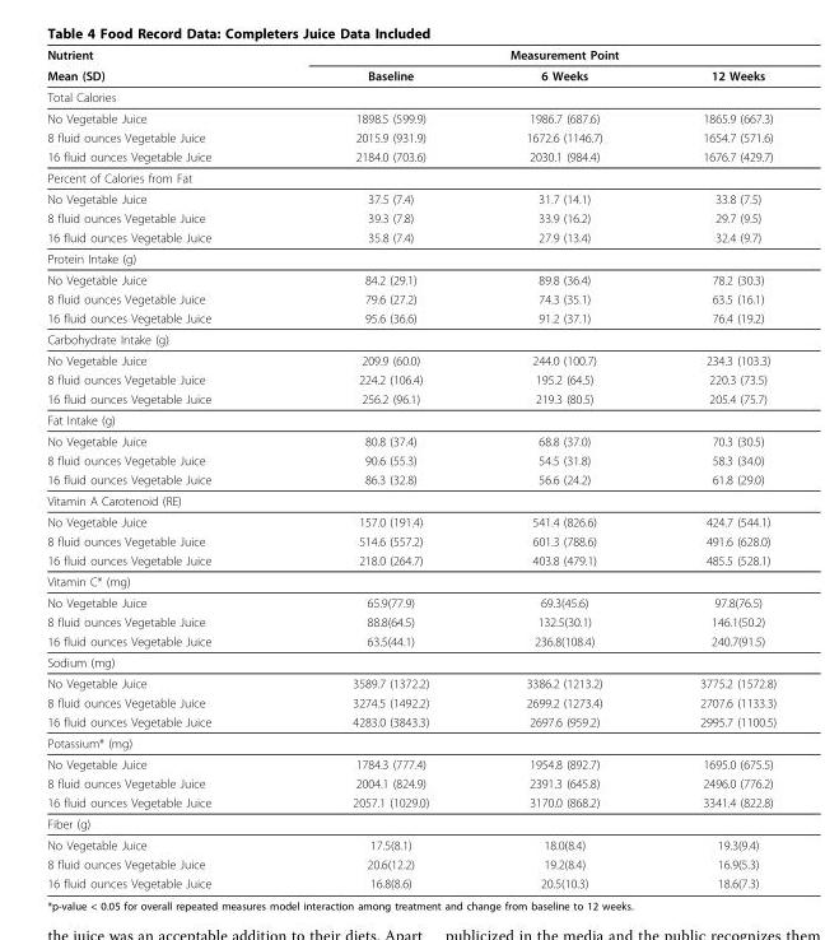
<table><thead><tr><td rowspan="2">Nutrient Mean (SD)</td><td colspan="3">Measurement Point</td></tr><tr><td>Baseline</td><td>6 Weeks</td><td>12 Weeks</td></tr></thead><tbody><tr><td colspan="4">Total Calories</td></tr><tr><td>No Vegetable Juice</td><td>1898.5 (599.9)</td><td>1986.7 (687.6)</td><td>1865.9 (667.3)</td></tr><tr><td>8 fluid ounces Vegetable Juice</td><td>2015.9 (931.9)</td><td>1672.6 (1146.7)</td><td>1654.7 (571.6)</td></tr><tr><td>16 fluid ounces Vegetable Juice</td><td>2184.0 (703.6)</td><td>2030.1 (984.4)</td><td>1676.7 (429.7)</td></tr><tr><td colspan="4">Percent of Calories from Fat</td></tr><tr><td>No Vegetable Juice</td><td>37.5 (7.4)</td><td>31.7 (14.1)</td><td>33.8 (7.5)</td></tr><tr><td>8 fluid ounces Vegetable Juice</td><td>39.3 (7.8)</td><td>33.9 (16.2)</td><td>29.7 (9.5)</td></tr><tr><td>16 fluid ounces Vegetable Juice</td><td>35.8 (7.4)</td><td>27.9 (13.4)</td><td>32.4 (9.7)</td></tr><tr><td colspan="4">Protein Intake (g)</td></tr><tr><td>No Vegetable Juice</td><td>84.2 (29.1)</td><td>89.8 (36.4)</td><td>78.2 (30.3)</td></tr><tr><td>8 fluid ounces Vegetable Juice</td><td>79.6 (27.2)</td><td>74.3 (35.1)</td><td>63.5 (16.1)</td></tr><tr><td>16 fluid ounces Vegetable Juice</td><td>95.6 (36.6)</td><td>91.2 (37.1)</td><td>76.4 (19.2)</td></tr><tr><td colspan="4">Carbohydrate Intake (g)</td></tr><tr><td>No Vegetable Juice</td><td>209.9 (60.0)</td><td>244.0 (100.7)</td><td>234.3 (103.3)</td></tr><tr><td>8 fluid ounces Vegetable Juice</td><td>224.2 (106.4)</td><td>195.2 (64.5)</td><td>220.3 (73.5)</td></tr><tr><td>16 fluid ounces Vegetable Juice</td><td>256.2 (96.1)</td><td>219.3 (80.5)</td><td>205.4 (75.7)</td></tr><tr><td colspan="4">Fat Intake (g)</td></tr><tr><td>No Vegetable Juice</td><td>80.8 (37.4)</td><td>68.8 (37.0)</td><td>70.3 (30.5)</td></tr><tr><td>8 fluid ounces Vegetable Juice</td><td>90.6 (55.3)</td><td>54.5 (31.8)</td><td>58.3 (34.0)</td></tr><tr><td>16 fluid ounces Vegetable Juice</td><td>86.3 (32.8)</td><td>56.6 (24.2)</td><td>61.8 (29.0)</td></tr><tr><td colspan="4">Vitamin A Carotenoid (RE)</td></tr><tr><td>No Vegetable Juice</td><td>157.0 (191.4)</td><td>541.4 (826.6)</td><td>424.7 (544.1)</td></tr><tr><td>8 fluid ounces Vegetable Juice</td><td>514.6 (557.2)</td><td>601.3 (788.6)</td><td>491.6 (628.0)</td></tr><tr><td>16 fluid ounces Vegetable Juice</td><td>218.0 (264.7)</td><td>403.8 (479.1)</td><td>485.5 (528.1)</td></tr><tr><td colspan="4">Vitamin C* (mg)</td></tr><tr><td>No Vegetable Juice</td><td>65.9(77.9)</td><td>69.3(45.6)</td><td>97.8(76.5)</td></tr><tr><td>8 fluid ounces Vegetable Juice</td><td>88.8(64.5)</td><td>132.5(30.1)</td><td>146.1(50.2)</td></tr><tr><td>16 fluid ounces Vegetable Juice</td><td>63.5(44.1)</td><td>236.8(108.4)</td><td>240.7(91.5)</td></tr><tr><td colspan="4">Sodium (mg)</td></tr><tr><td>No Vegetable Juice</td><td>3589.7 (1372.2)</td><td>3386.2 (1213.2)</td><td>3775.2 (1572.8)</td></tr><tr><td>8 fluid ounces Vegetable Juice</td><td>3274.5 (1492.2)</td><td>2699.2 (1273.4)</td><td>2707.6 (1133.3)</td></tr><tr><td>16 fluid ounces Vegetable Juice</td><td>4283.0 (3843.3)</td><td>2697.6 (959.2)</td><td>2995.7 (1100.5)</td></tr><tr><td colspan="4">Potassium* (mg)</td></tr><tr><td>No Vegetable Juice</td><td>1784.3 (777.4)</td><td>1954.8 (892.7)</td><td>1695.0 (675.5)</td></tr><tr><td>8 fluid ounces Vegetable Juice</td><td>2004.1 (824.9)</td><td>2391.3 (645.8)</td><td>2496.0 (776.2)</td></tr><tr><td>16 fluid ounces Vegetable Juice</td><td>2057.1 (1029.0)</td><td>3170.0 (868.2)</td><td>3341.4 (822.8)</td></tr><tr><td colspan="4">Fiber (g)</td></tr><tr><td>No Vegetable Juice</td><td>17.5(8.1)</td><td>18.0(8.4)</td><td>19.3(9.4)</td></tr><tr><td>8 fluid ounces Vegetable Juice</td><td>20.6(12.2)</td><td>19.2(8.4)</td><td>16.9(5.3)</td></tr><tr><td>16 fluid ounces Vegetable Juice</td><td>16.8(8.6)</td><td>20.5(10.3)</td><td>18.6(7.3)</td></tr></tbody></table>